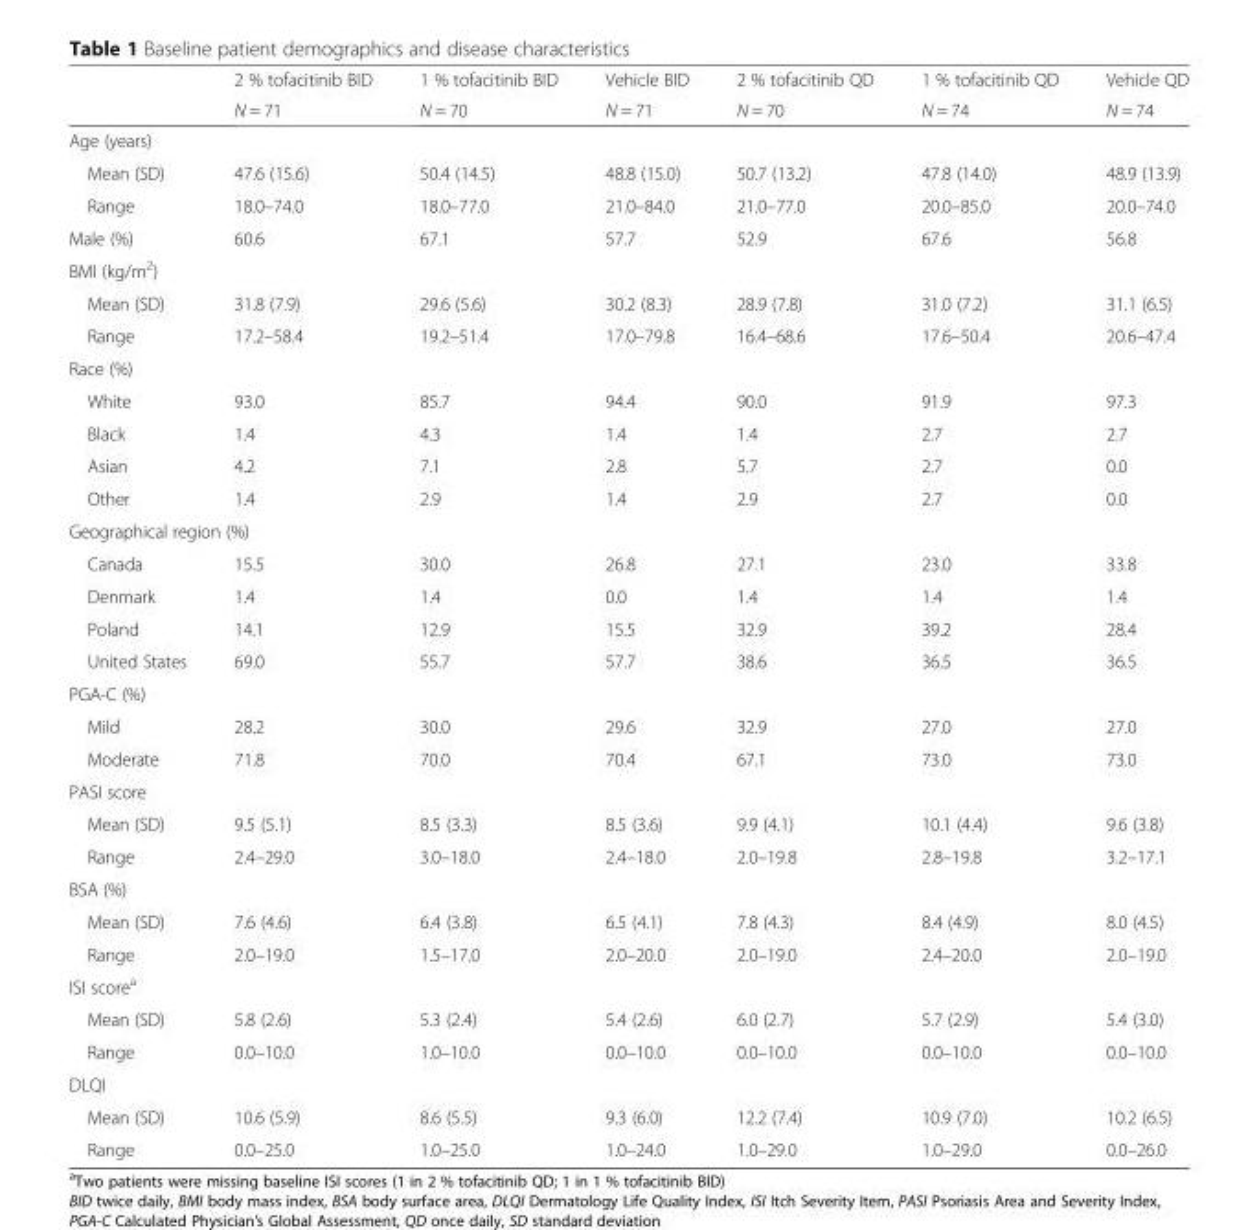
<table><thead><tr><td rowspan="2"></td><td rowspan="2">2 % tofacitinib BID N = 71</td><td rowspan="2">1 % tofacitinib BID N = 70</td><td rowspan="2">Vehicle BID N = 71</td><td rowspan="2">2 % tofacitinib QD N = 70</td><td rowspan="2">1 % tofacitinib QD N = 74</td><td rowspan="2">Vehicle QD N = 74</td></tr><tr></tr></thead><tbody><tr><td colspan="7">Age (years)</td></tr><tr><td>Mean (SD)</td><td>47.6 (15.6)</td><td>50.4 (14.5)</td><td>48.8 (15.0)</td><td>50.7 (13.2)</td><td>47.8 (14.0)</td><td>48.9 (13.9)</td></tr><tr><td>Range</td><td>18.0–74.0</td><td>18.0–77.0</td><td>21.0–84.0</td><td>21.0–77.0</td><td>20.0–85.0</td><td>20.0–74.0</td></tr><tr><td>Male (%)</td><td>60.6</td><td>67.1</td><td>57.7</td><td>52.9</td><td>67.6</td><td>56.8</td></tr><tr><td colspan="7">BMI (kg/m<sup>2</sup>)</td></tr><tr><td>Mean (SD)</td><td>31.8 (7.9)</td><td>29.6 (5.6)</td><td>30.2 (8.3)</td><td>28.9 (7.8)</td><td>31.0 (7.2)</td><td>31.1 (6.5)</td></tr><tr><td>Range</td><td>17.2–58.4</td><td>19.2–51.4</td><td>17.0–79.8</td><td>16.4–68.6</td><td>17.6–50.4</td><td>20.6–47.4</td></tr><tr><td colspan="7">Race (%)</td></tr><tr><td>White</td><td>93.0</td><td>85.7</td><td>94.4</td><td>90.0</td><td>91.9</td><td>97.3</td></tr><tr><td>Black</td><td>1.4</td><td>4.3</td><td>1.4</td><td>1.4</td><td>2.7</td><td>2.7</td></tr><tr><td>Asian</td><td>4.2</td><td>7.1</td><td>2.8</td><td>5.7</td><td>2.7</td><td>0.0</td></tr><tr><td>Other</td><td>1.4</td><td>2.9</td><td>1.4</td><td>2.9</td><td>2.7</td><td>0.0</td></tr><tr><td colspan="7">Geographical region (%)</td></tr><tr><td>Canada</td><td>15.5</td><td>30.0</td><td>26.8</td><td>27.1</td><td>23.0</td><td>33.8</td></tr><tr><td>Denmark</td><td>1.4</td><td>1.4</td><td>0.0</td><td>1.4</td><td>1.4</td><td>1.4</td></tr><tr><td>Poland</td><td>14.1</td><td>12.9</td><td>15.5</td><td>32.9</td><td>39.2</td><td>28.4</td></tr><tr><td>United States</td><td>69.0</td><td>55.7</td><td>57.7</td><td>38.6</td><td>36.5</td><td>36.5</td></tr><tr><td colspan="7">PGA-C (%)</td></tr><tr><td>Mild</td><td>28.2</td><td>30.0</td><td>29.6</td><td>32.9</td><td>27.0</td><td>27.0</td></tr><tr><td>Moderate</td><td>71.8</td><td>70.0</td><td>70.4</td><td>67.1</td><td>73.0</td><td>73.0</td></tr><tr><td colspan="7">PASI score</td></tr><tr><td>Mean (SD)</td><td>9.5 (5.1)</td><td>8.5 (3.3)</td><td>8.5 (3.6)</td><td>9.9 (4.1)</td><td>10.1 (4.4)</td><td>9.6 (3.8)</td></tr><tr><td>Range</td><td>2.4–29.0</td><td>3.0–18.0</td><td>2.4–18.0</td><td>2.0–19.8</td><td>2.8–19.8</td><td>3.2–17.1</td></tr><tr><td colspan="7">BSA (%)</td></tr><tr><td>Mean (SD)</td><td>7.6 (4.6)</td><td>6.4 (3.8)</td><td>6.5 (4.1)</td><td>7.8 (4.3)</td><td>8.4 (4.9)</td><td>8.0 (4.5)</td></tr><tr><td>Range</td><td>2.0–19.0</td><td>1.5–17.0</td><td>2.0–20.0</td><td>2.0–19.0</td><td>2.4–20.0</td><td>2.0–19.0</td></tr><tr><td colspan="7">ISI score<sup>a</sup></td></tr><tr><td>Mean (SD)</td><td>5.8 (2.6)</td><td>5.3 (2.4)</td><td>5.4 (2.6)</td><td>6.0 (2.7)</td><td>5.7 (2.9)</td><td>5.4 (3.0)</td></tr><tr><td>Range</td><td>0.0–10.0</td><td>1.0–10.0</td><td>0.0–10.0</td><td>0.0–10.0</td><td>0.0–10.0</td><td>0.0–10.0</td></tr><tr><td colspan="7">DLQI</td></tr><tr><td>Mean (SD)</td><td>10.6 (5.9)</td><td>8.6 (5.5)</td><td>9.3 (6.0)</td><td>12.2 (7.4)</td><td>10.9 (7.0)</td><td>10.2 (6.5)</td></tr><tr><td>Range</td><td>0.0–25.0</td><td>1.0–25.0</td><td>1.0–24.0</td><td>1.0–29.0</td><td>1.0–29.0</td><td>0.0–26.0</td></tr></tbody></table>